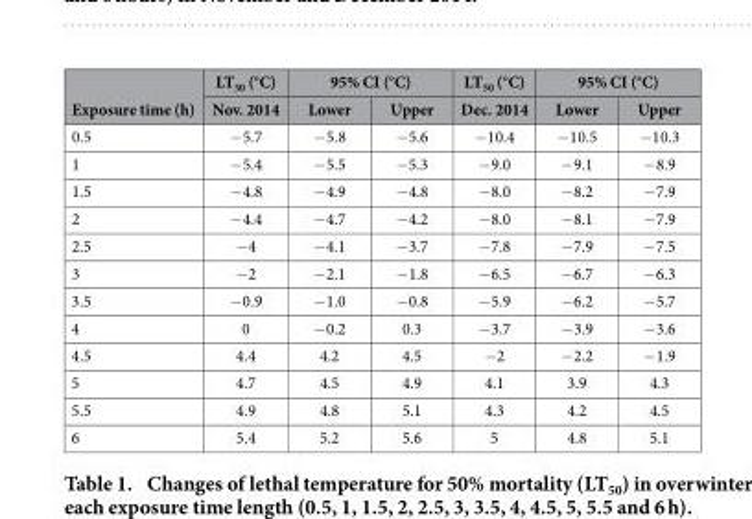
<table><thead><tr><td rowspan="2">Exposure time (h)</td><td rowspan="2">LT<sub>50</sub> (°C) Nov. 2014</td><td colspan="2">95% CI (°C)</td><td rowspan="2">LT<sub>50</sub> (°C) Dec. 2014</td><td colspan="2">95% CI (°C)</td></tr><tr><td>Lower</td><td>Upper</td><td>Lower</td><td>Upper</td></tr></thead><tbody><tr><td>0.5</td><td>− 5.7</td><td>− 5.8</td><td>− 5.6</td><td>− 10.4</td><td>− 10.5</td><td>− 10.3</td></tr><tr><td>1</td><td>− 5.4</td><td>− 5.5</td><td>− 5.3</td><td>− 9.0</td><td>− 9.1</td><td>− 8.9</td></tr><tr><td>1.5</td><td>− 4.8</td><td>− 4.9</td><td>− 4.8</td><td>− 8.0</td><td>− 8.2</td><td>− 7.9</td></tr><tr><td>2</td><td>− 4.4</td><td>− 4.7</td><td>− 4.2</td><td>− 8.0</td><td>− 8.1</td><td>− 7.9</td></tr><tr><td>2.5</td><td>− 4</td><td>− 4.1</td><td>− 3.7</td><td>− 7.8</td><td>− 7.9</td><td>− 7.5</td></tr><tr><td>3</td><td>− 2</td><td>− 2.1</td><td>− 1.8</td><td>− 6.5</td><td>− 6.7</td><td>− 6.3</td></tr><tr><td>3.5</td><td>− 0.9</td><td>− 1.0</td><td>− 0.8</td><td>− 5.9</td><td>− 6.2</td><td>− 5.7</td></tr><tr><td>4</td><td>0</td><td>− 0.2</td><td>0.3</td><td>− 3.7</td><td>− 3.9</td><td>− 3.6</td></tr><tr><td>4.5</td><td>4.4</td><td>4.2</td><td>4.5</td><td>− 2</td><td>− 2.2</td><td>− 1.9</td></tr><tr><td>5</td><td>4.7</td><td>4.5</td><td>4.9</td><td>4.1</td><td>3.9</td><td>4.3</td></tr><tr><td>5.5</td><td>4.9</td><td>4.8</td><td>5.1</td><td>4.3</td><td>4.2</td><td>4.5</td></tr><tr><td>6</td><td>5.4</td><td>5.2</td><td>5.6</td><td>5</td><td>4.8</td><td>5.1</td></tr></tbody></table>